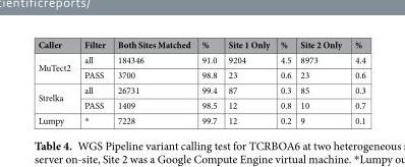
<table><thead><tr><td>Caller</td><td>Filter</td><td>Both Sites Matched</td><td>%</td><td>Site 1 Only</td><td>%</td><td>Site 2 Only</td><td>%</td></tr></thead><tbody><tr><td rowspan="2">MuTect2</td><td>all</td><td>184346</td><td>91.0</td><td>9204</td><td>4.5</td><td>8973</td><td>4.4</td></tr><tr><td>PASS</td><td>3700</td><td>98.8</td><td>23</td><td>0.6</td><td>23</td><td>0.6</td></tr><tr><td rowspan="2">Strelka</td><td>all</td><td>26731</td><td>99.4</td><td>87</td><td>0.3</td><td>85</td><td>0.3</td></tr><tr><td>PASS</td><td>1409</td><td>98.5</td><td>12</td><td>0.8</td><td>10</td><td>0.7</td></tr><tr><td>Lumpy</td><td>*</td><td>7228</td><td>99.7</td><td>12</td><td>0.2</td><td>9</td><td>0.1</td></tr></tbody></table>